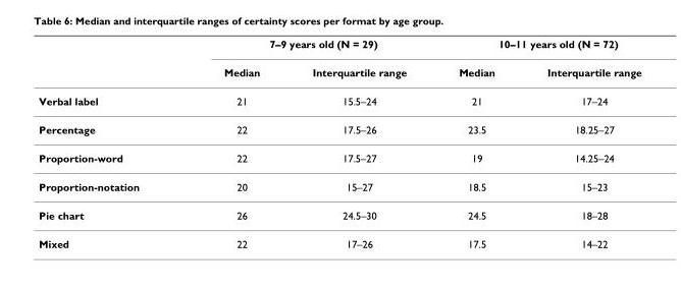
<table><thead><tr><td rowspan="2"></td><td colspan="2">7–9 years old (N = 29)</td><td colspan="2">10–11 years old (N = 72)</td></tr><tr><td>Median</td><td>Interquartile range</td><td>Median</td><td>Interquartile range</td></tr></thead><tbody><tr><td>Verbal label</td><td>21</td><td>15.5–24</td><td>21</td><td>17–24</td></tr><tr><td>Percentage</td><td>22</td><td>17.5–26</td><td>23.5</td><td>18.25–27</td></tr><tr><td>Proportion-word</td><td>22</td><td>17.5–27</td><td>19</td><td>14.25–24</td></tr><tr><td>Proportion-notation</td><td>20</td><td>15–27</td><td>18.5</td><td>15–23</td></tr><tr><td>Pie chart</td><td>26</td><td>24.5–30</td><td>24.5</td><td>18–28</td></tr><tr><td>Mixed</td><td>22</td><td>17–26</td><td>17.5</td><td>14–22</td></tr></tbody></table>